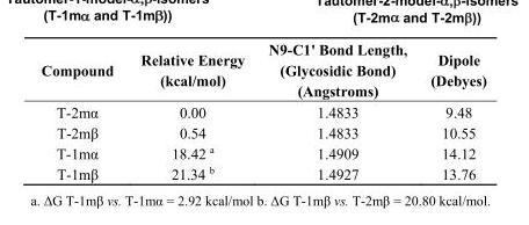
<table><thead><tr><td>Compound</td><td>Relative Energy (kcal/mol)</td><td>N9-C1&#x27; Bond Length, (Glycosidic Bond) (Angstroms)</td><td>Dipole (Debyes)</td></tr></thead><tbody><tr><td>T-2mα</td><td>0.00</td><td>1.4833</td><td>9.48</td></tr><tr><td>T-2mβ</td><td>0.54</td><td>1.4833</td><td>10.55</td></tr><tr><td>T-1mα</td><td>18.42 <sup>a</sup></td><td>1.4909</td><td>14.12</td></tr><tr><td>T-1mβ</td><td>21.34 <sup>b</sup></td><td>1.4927</td><td>13.76</td></tr></tbody></table>